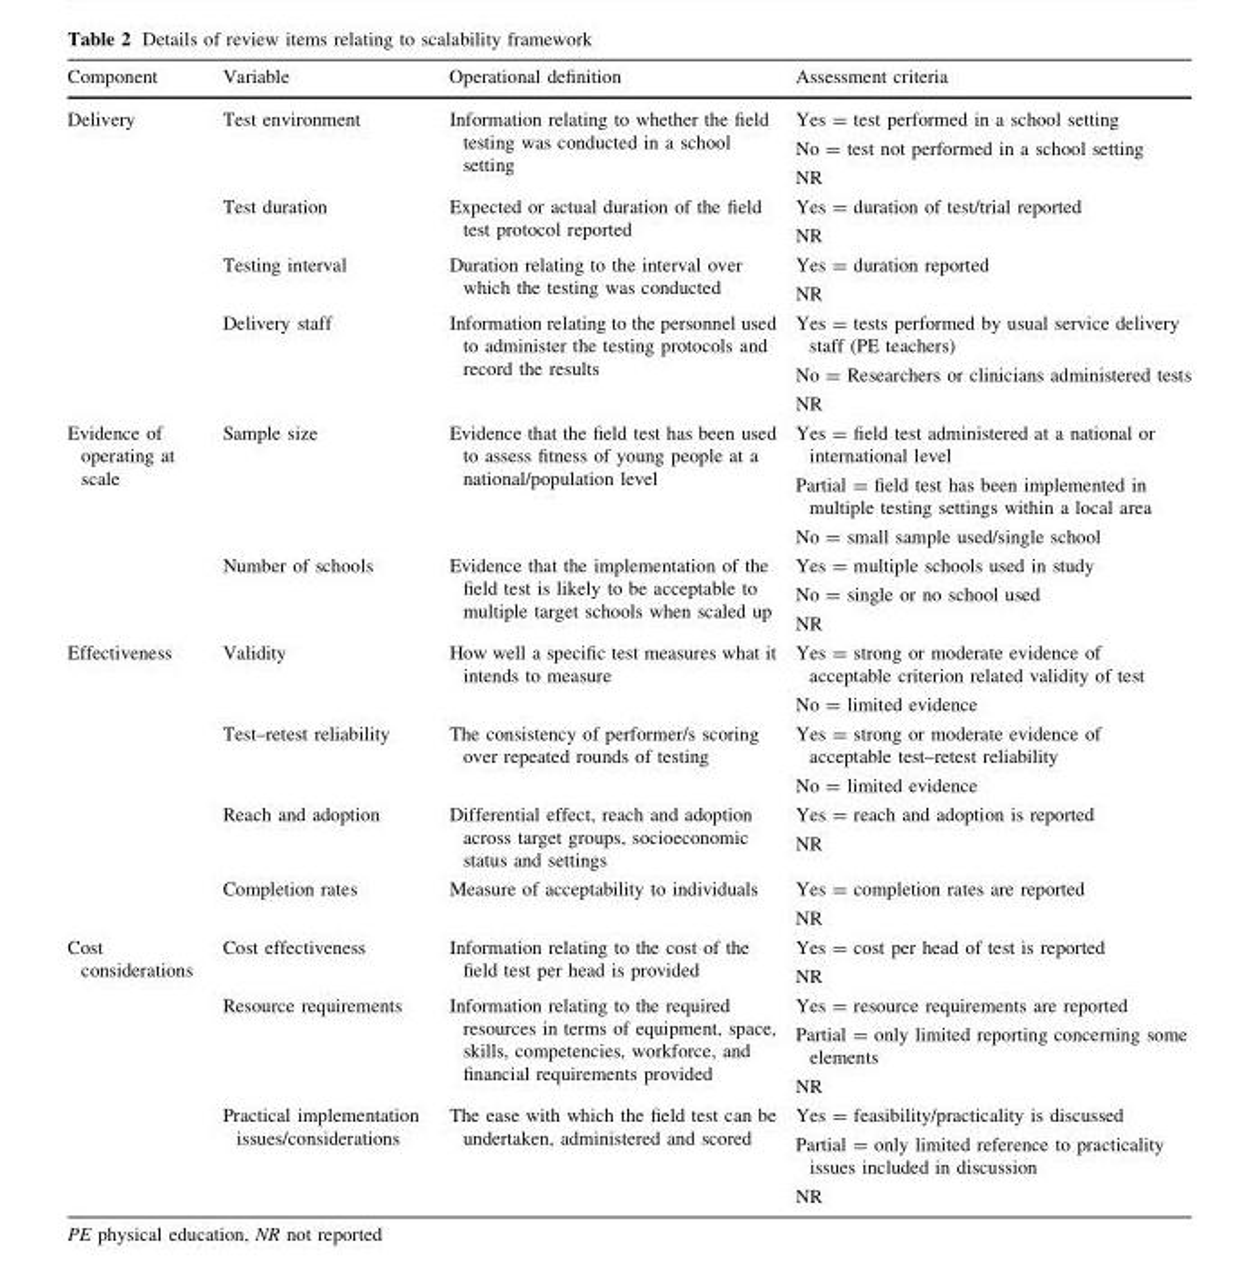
<table><thead><tr><td>Component</td><td>Variable</td><td>Operational definition</td><td>Assessment criteria</td></tr></thead><tbody><tr><td rowspan="4">Delivery</td><td>Test environment</td><td>Information relating to whether the field testing was conducted in a school setting</td><td>Yes = test performed in a school setting No = test not performed in a school setting NR</td></tr><tr><td>Test duration</td><td>Expected or actual duration of the field test protocol reported</td><td>Yes = duration of test/trial reported NR</td></tr><tr><td>Testing interval</td><td>Duration relating to the interval over which the testing was conducted</td><td>Yes = duration reported NR</td></tr><tr><td>Delivery staff</td><td>Information relating to the personnel used to administer the testing protocols and record the results</td><td>Yes = tests performed by usual service delivery staff (PE teachers) No = Researchers or clinicians administered tests NR</td></tr><tr><td rowspan="2">Evidence of operating at scale</td><td>Sample size</td><td>Evidence that the field test has been used to assess fitness of young people at a national/population level</td><td>Yes = field test administered at a national or international level Partial = field test has been implemented in multiple testing settings within a local area No = small sample used/single school</td></tr><tr><td>Number of schools</td><td>Evidence that the implementation of the field test is likely to be acceptable to multiple target schools when scaled up</td><td>Yes = multiple schools used in study No = single or no school used NR</td></tr><tr><td rowspan="4">Effectiveness</td><td>Validity</td><td>How well a specific test measures what it intends to measure</td><td>Yes = strong or moderate evidence of acceptable criterion related validity of test No = limited evidence</td></tr><tr><td>Test–retest reliability</td><td>The consistency of performer/s scoring over repeated rounds of testing</td><td>Yes = strong or moderate evidence of acceptable test–retest reliability No = limited evidence</td></tr><tr><td>Reach and adoption</td><td>Differential effect, reach and adoption across target groups, socioeconomic status and settings</td><td>Yes = reach and adoption is reported NR</td></tr><tr><td>Completion rates</td><td>Measure of acceptability to individuals</td><td>Yes = completion rates are reported NR</td></tr><tr><td rowspan="3">Cost considerations</td><td>Cost effectiveness</td><td>Information relating to the cost of the field test per head is provided</td><td>Yes = cost per head of test is reported NR</td></tr><tr><td>Resource requirements</td><td>Information relating to the required resources in terms of equipment, space, skills, competencies, workforce, and financial requirements provided</td><td>Yes = resource requirements are reported Partial = only limited reporting concerning some elements NR</td></tr><tr><td>Practical implementation issues/considerations</td><td>The ease with which the field test can be undertaken, administered and scored</td><td>Yes = feasibility/practicality is discussed Partial = only limited reference to practicality issues included in discussion NR</td></tr></tbody></table>